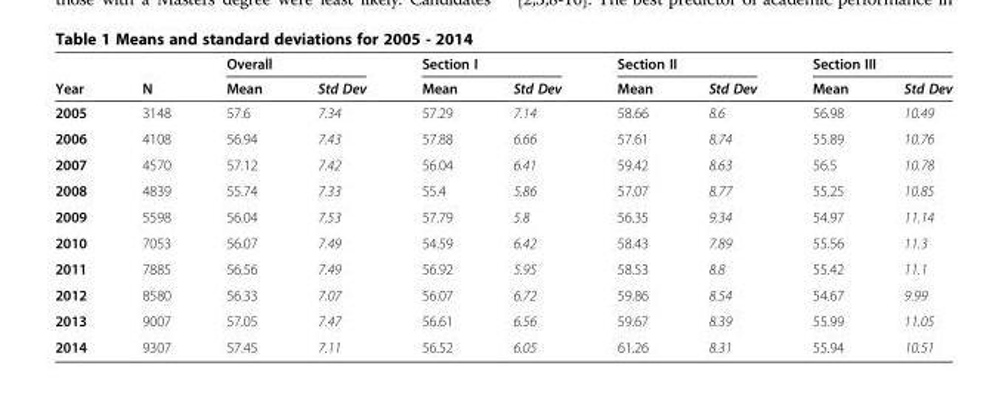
<table><thead><tr><td rowspan="2">Year</td><td rowspan="2">N</td><td colspan="2">Overall</td><td colspan="2">Section I</td><td colspan="2">Section II</td><td colspan="2">Section III</td></tr><tr><td>Mean</td><td>Std Dev</td><td>Mean</td><td>Std Dev</td><td>Mean</td><td>Std Dev</td><td>Mean</td><td>Std Dev</td></tr></thead><tbody><tr><td>2005</td><td>3148</td><td>57.6</td><td>7.34</td><td>57.29</td><td>7.14</td><td>58.66</td><td>8.6</td><td>56.98</td><td>10.49</td></tr><tr><td>2006</td><td>4108</td><td>56.94</td><td>7.43</td><td>57.88</td><td>6.66</td><td>57.61</td><td>8.74</td><td>55.89</td><td>10.76</td></tr><tr><td>2007</td><td>4570</td><td>57.12</td><td>7.42</td><td>56.04</td><td>6.41</td><td>59.42</td><td>8.63</td><td>56.5</td><td>10.78</td></tr><tr><td>2008</td><td>4839</td><td>55.74</td><td>7.33</td><td>55.4</td><td>5.86</td><td>57.07</td><td>8.77</td><td>55.25</td><td>10.85</td></tr><tr><td>2009</td><td>5598</td><td>56.04</td><td>7.53</td><td>57.79</td><td>5.8</td><td>56.35</td><td>9.34</td><td>54.97</td><td>11.14</td></tr><tr><td>2010</td><td>7053</td><td>56.07</td><td>7.49</td><td>54.59</td><td>6.42</td><td>58.43</td><td>7.89</td><td>55.56</td><td>11.3</td></tr><tr><td>2011</td><td>7885</td><td>56.56</td><td>7.49</td><td>56.92</td><td>5.95</td><td>58.53</td><td>8.8</td><td>55.42</td><td>11.1</td></tr><tr><td>2012</td><td>8580</td><td>56.33</td><td>7.07</td><td>56.07</td><td>6.72</td><td>59.86</td><td>8.54</td><td>54.67</td><td>9.99</td></tr><tr><td>2013</td><td>9007</td><td>57.05</td><td>7.47</td><td>56.61</td><td>6.56</td><td>59.67</td><td>8.39</td><td>55.99</td><td>11.05</td></tr><tr><td>2014</td><td>9307</td><td>57.45</td><td>7.11</td><td>56.52</td><td>6.05</td><td>61.26</td><td>8.31</td><td>55.94</td><td>10.51</td></tr></tbody></table>